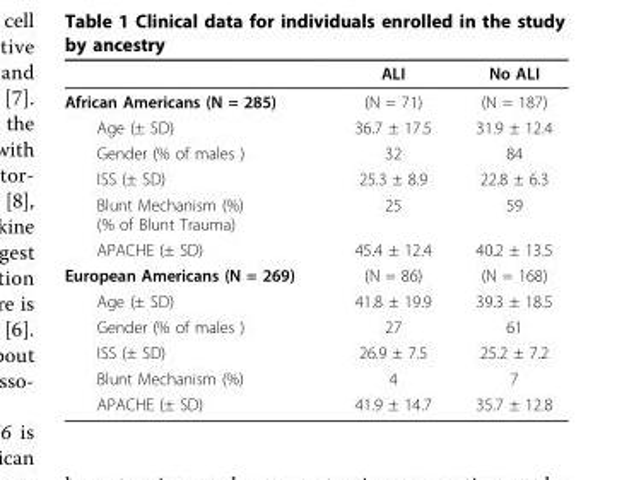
<table><thead><tr><td></td><td>ALI</td><td>No ALI</td></tr></thead><tbody><tr><td>African Americans (N = 285)</td><td>(N = 71)</td><td>(N = 187)</td></tr><tr><td>Age (± SD)</td><td>36.7 ± 17.5</td><td>31.9 ± 12.4</td></tr><tr><td>Gender (% of males )</td><td>32</td><td>84</td></tr><tr><td>ISS (± SD)</td><td>25.3 ± 8.9</td><td>22.8 ± 6.3</td></tr><tr><td>Blunt Mechanism (%) (% of Blunt Trauma)</td><td>25</td><td>59</td></tr><tr><td>APACHE (± SD)</td><td>45.4 ± 12.4</td><td>40.2 ± 13.5</td></tr><tr><td>European Americans (N = 269)</td><td>(N = 86)</td><td>(N = 168)</td></tr><tr><td>Age (± SD)</td><td>41.8 ± 19.9</td><td>39.3 ± 18.5</td></tr><tr><td>Gender (% of males )</td><td>27</td><td>61</td></tr><tr><td>ISS (± SD)</td><td>26.9 ± 7.5</td><td>25.2 ± 7.2</td></tr><tr><td>Blunt Mechanism (%)</td><td>4</td><td>7</td></tr><tr><td>APACHE (± SD)</td><td>41.9 ± 14.7</td><td>35.7 ± 12.8</td></tr></tbody></table>